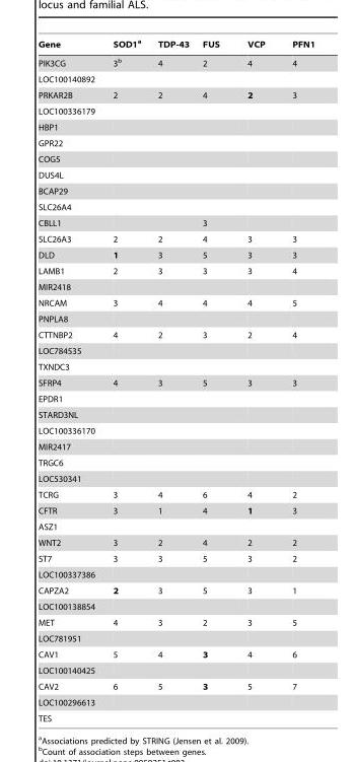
<table><thead><tr><td>Gene</td><td>SOD1<sup>a</sup></td><td>TDP-43</td><td>FUS</td><td>VCP</td><td>PFN1</td></tr></thead><tbody><tr><td>PIK3CG</td><td>3<sup>b</sup></td><td>4</td><td>2</td><td>4</td><td>4</td></tr><tr><td colspan="6">LOC100140892</td></tr><tr><td>PRKAR2B</td><td>2</td><td>2</td><td>4</td><td>2</td><td>3</td></tr><tr><td colspan="6">LOC100336179</td></tr><tr><td colspan="6">HBP1</td></tr><tr><td colspan="6">GPR22</td></tr><tr><td colspan="6">COG5</td></tr><tr><td colspan="6">DUS4L</td></tr><tr><td colspan="6">BCAP29</td></tr><tr><td colspan="6">SLC26A4</td></tr><tr><td>CBLL1</td><td></td><td></td><td>3</td><td></td><td></td></tr><tr><td>SLC26A3</td><td>2</td><td>2</td><td>4</td><td>3</td><td>3</td></tr><tr><td>DLD</td><td>1</td><td>3</td><td>5</td><td>3</td><td>3</td></tr><tr><td>LAMB1</td><td>2</td><td>3</td><td>3</td><td>3</td><td>4</td></tr><tr><td colspan="6">MIR2418</td></tr><tr><td>NRCAM</td><td>3</td><td>4</td><td>4</td><td>4</td><td>5</td></tr><tr><td colspan="6">PNPLA8</td></tr><tr><td>CTTNBP2</td><td>4</td><td>2</td><td>3</td><td>2</td><td>4</td></tr><tr><td colspan="6">LOC784535</td></tr><tr><td colspan="6">TXNDC3</td></tr><tr><td>SFRP4</td><td>4</td><td>3</td><td>5</td><td>3</td><td>3</td></tr><tr><td colspan="6">EPDR1</td></tr><tr><td colspan="6">STARD3NL</td></tr><tr><td colspan="6">LOC100336170</td></tr><tr><td colspan="6">MIR2417</td></tr><tr><td colspan="6">TRGC6</td></tr><tr><td colspan="6">LOC530341</td></tr><tr><td>TCRG</td><td>3</td><td>4</td><td>6</td><td>4</td><td>2</td></tr><tr><td>CFTR</td><td>3</td><td>1</td><td>4</td><td>1</td><td>3</td></tr><tr><td colspan="6">ASZ1</td></tr><tr><td>WNT2</td><td>3</td><td>2</td><td>4</td><td>2</td><td>2</td></tr><tr><td>ST7</td><td>3</td><td>3</td><td>5</td><td>3</td><td>2</td></tr><tr><td colspan="6">LOC100337386</td></tr><tr><td>CAPZA2</td><td>2</td><td>3</td><td>5</td><td>3</td><td>1</td></tr><tr><td colspan="6">LOC100138854</td></tr><tr><td>MET</td><td>4</td><td>3</td><td>2</td><td>3</td><td>5</td></tr><tr><td colspan="6">LOC781951</td></tr><tr><td>CAV1</td><td>5</td><td>4</td><td>3</td><td>4</td><td>6</td></tr><tr><td colspan="6">LOC100140425</td></tr><tr><td>CAV2</td><td>6</td><td>5</td><td>3</td><td>5</td><td>7</td></tr><tr><td colspan="6">LOC100296613</td></tr><tr><td>TES</td><td></td><td></td><td></td><td></td><td></td></tr></tbody></table>